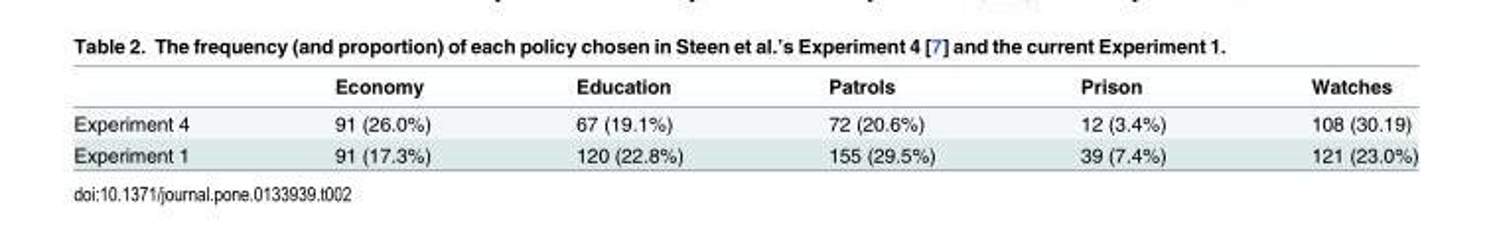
<table><thead><tr><td></td><td>Economy</td><td>Education</td><td>Patrols</td><td>Prison</td><td>Watches</td></tr></thead><tbody><tr><td>Experiment 4</td><td>91 (26.0%)</td><td>67 (19.1%)</td><td>72 (20.6%)</td><td>12 (3.4%)</td><td>108 (30.19)</td></tr><tr><td>Experiment 1</td><td>91 (17.3%)</td><td>120 (22.8%)</td><td>155 (29.5%)</td><td>39 (7.4%)</td><td>121 (23.0%)</td></tr></tbody></table>